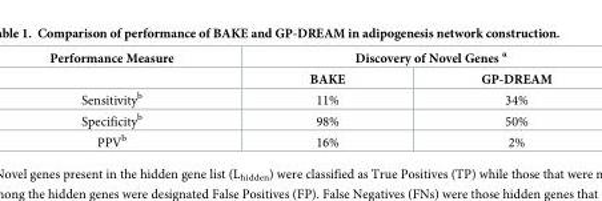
<table><thead><tr><td rowspan="2">Performance Measure</td><td colspan="2">Discovery of Novel Genes <sup>a</sup></td></tr><tr><td>BAKE</td><td>GP-DREAM</td></tr></thead><tbody><tr><td>Sensitivity<sup>b</sup></td><td>11%</td><td>34%</td></tr><tr><td>Specificity<sup>b</sup></td><td>98%</td><td>50%</td></tr><tr><td>PPV<sup>b</sup></td><td>16%</td><td>2%</td></tr></tbody></table>